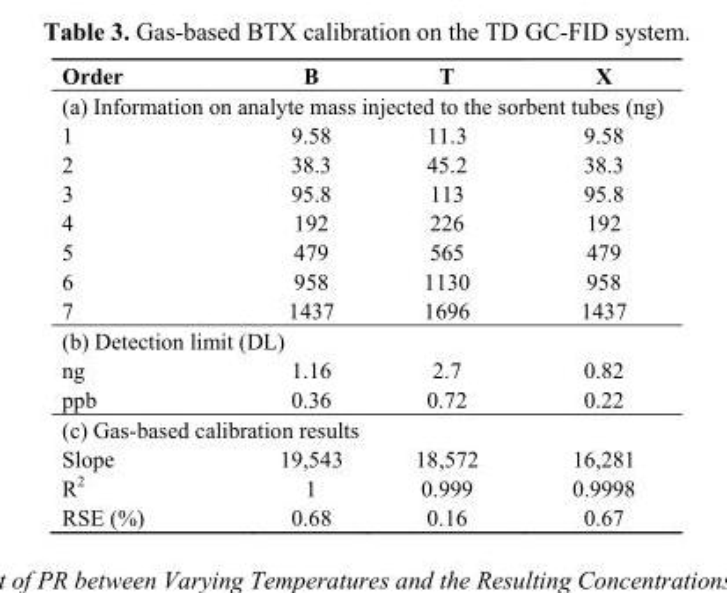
<table><thead><tr><td>Order</td><td>B</td><td>T</td><td>X</td></tr></thead><tbody><tr><td colspan="4">(a) Information on analyte mass injected to the sorbent tubes (ng)</td></tr><tr><td>1</td><td>9.58</td><td>11.3</td><td>9.58</td></tr><tr><td>2</td><td>38.3</td><td>45.2</td><td>38.3</td></tr><tr><td>3</td><td>95.8</td><td>113</td><td>95.8</td></tr><tr><td>4</td><td>192</td><td>226</td><td>192</td></tr><tr><td>5</td><td>479</td><td>565</td><td>479</td></tr><tr><td>6</td><td>958</td><td>1130</td><td>958</td></tr><tr><td>7</td><td>1437</td><td>1696</td><td>1437</td></tr><tr><td colspan="4">(b) Detection limit (DL)</td></tr><tr><td>ng</td><td>1.16</td><td>2.7</td><td>0.82</td></tr><tr><td>ppb</td><td>0.36</td><td>0.72</td><td>0.22</td></tr><tr><td colspan="4">(c) Gas-based calibration results</td></tr><tr><td>Slope</td><td>19,543</td><td>18,572</td><td>16,281</td></tr><tr><td>R<sup>2</sup></td><td>1</td><td>0.999</td><td>0.9998</td></tr><tr><td>RSE (%)</td><td>0.68</td><td>0.16</td><td>0.67</td></tr></tbody></table>